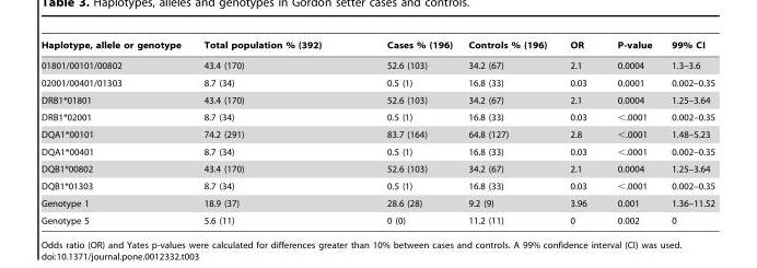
<table><thead><tr><td>Haplotype, allele or genotype</td><td>Total population % (392)</td><td>Cases % (196)</td><td>Controls % (196)</td><td>OR</td><td>P-value</td><td>99% CI</td></tr></thead><tbody><tr><td>01801/00101/00802</td><td>43.4 (170)</td><td>52.6 (103)</td><td>34.2 (67)</td><td>2.1</td><td>0.0004</td><td>1.3–3.6</td></tr><tr><td>02001/00401/01303</td><td>8.7 (34)</td><td>0.5 (1)</td><td>16.8 (33)</td><td>0.03</td><td>0.0001</td><td>0.002–0.35</td></tr><tr><td>DRB1*01801</td><td>43.4 (170)</td><td>52.6 (103)</td><td>34.2 (67)</td><td>2.1</td><td>0.0004</td><td>1.25–3.64</td></tr><tr><td>DRB1*02001</td><td>8.7 (34)</td><td>0.5 (1)</td><td>16.8 (33)</td><td>0.03</td><td>&lt;.0001</td><td>0.002–0.35</td></tr><tr><td>DQA1*00101</td><td>74.2 (291)</td><td>83.7 (164)</td><td>64.8 (127)</td><td>2.8</td><td>&lt;.0001</td><td>1.48–5.23</td></tr><tr><td>DQA1*00401</td><td>8.7 (34)</td><td>0.5 (1)</td><td>16.8 (33)</td><td>0.03</td><td>&lt;.0001</td><td>0.002–0.35</td></tr><tr><td>DQB1*00802</td><td>43.4 (170)</td><td>52.6 (103)</td><td>34.2 (67)</td><td>2.1</td><td>0.0004</td><td>1.25–3.64</td></tr><tr><td>DQB1*01303</td><td>8.7 (34)</td><td>0.5 (1)</td><td>16.8 (33)</td><td>0.03</td><td>&lt;.0001</td><td>0.002–0.35</td></tr><tr><td>Genotype 1</td><td>18.9 (37)</td><td>28.6 (28)</td><td>9.2 (9)</td><td>3.96</td><td>0.001</td><td>1.36–11.52</td></tr><tr><td>Genotype 5</td><td>5.6 (11)</td><td>0 (0)</td><td>11.2 (11)</td><td>0</td><td>0.002</td><td>0</td></tr></tbody></table>